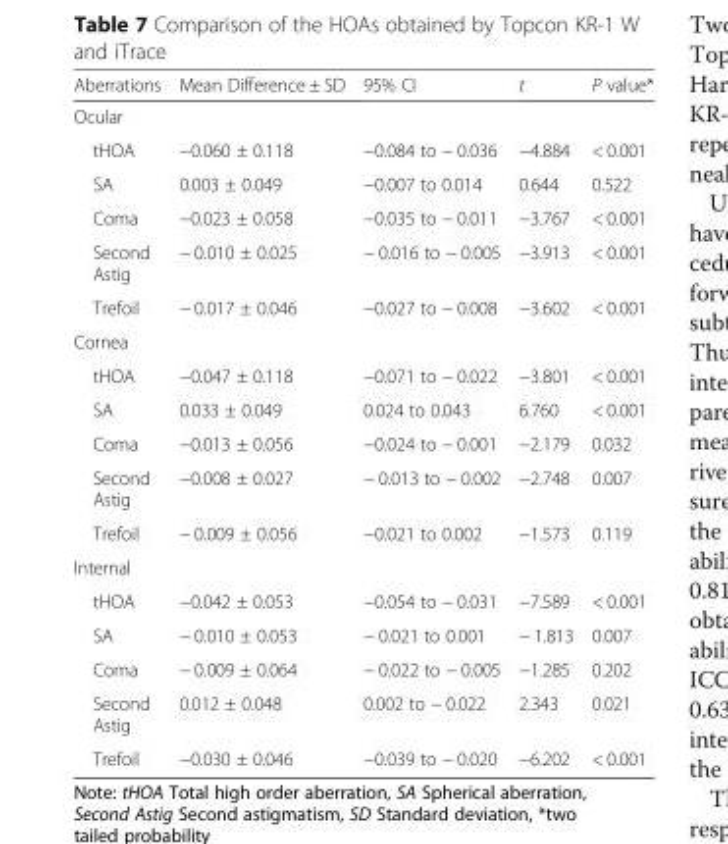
<table><thead><tr><td>Aberrations</td><td>Mean Difference ± SD</td><td>95% CI</td><td>t</td><td>P value*</td></tr></thead><tbody><tr><td colspan="5">Ocular</td></tr><tr><td>tHOA</td><td>−0.060 ± 0.118</td><td>−0.084 to − 0.036</td><td>−4.884</td><td>&lt; 0.001</td></tr><tr><td>SA</td><td>0.003 ± 0.049</td><td>−0.007 to 0.014</td><td>0.644</td><td>0.522</td></tr><tr><td>Coma</td><td>−0.023 ± 0.058</td><td>−0.035 to − 0.011</td><td>−3.767</td><td>&lt; 0.001</td></tr><tr><td>Second Astig</td><td>− 0.010 ± 0.025</td><td>− 0.016 to − 0.005</td><td>−3.913</td><td>&lt; 0.001</td></tr><tr><td>Trefoil</td><td>− 0.017 ± 0.046</td><td>−0.027 to − 0.008</td><td>−3.602</td><td>&lt; 0.001</td></tr><tr><td colspan="5">Cornea</td></tr><tr><td>tHOA</td><td>−0.047 ± 0.118</td><td>−0.071 to − 0.022</td><td>−3.801</td><td>&lt; 0.001</td></tr><tr><td>SA</td><td>0.033 ± 0.049</td><td>0.024 to 0.043</td><td>6.760</td><td>&lt; 0.001</td></tr><tr><td>Coma</td><td>−0.013 ± 0.056</td><td>−0.024 to − 0.001</td><td>−2.179</td><td>0.032</td></tr><tr><td>Second Astig</td><td>−0.008 ± 0.027</td><td>− 0.013 to − 0.002</td><td>−2.748</td><td>0.007</td></tr><tr><td>Trefoil</td><td>− 0.009 ± 0.056</td><td>−0.021 to 0.002</td><td>−1.573</td><td>0.119</td></tr><tr><td colspan="5">Internal</td></tr><tr><td>tHOA</td><td>−0.042 ± 0.053</td><td>−0.054 to − 0.031</td><td>−7.589</td><td>&lt; 0.001</td></tr><tr><td>SA</td><td>− 0.010 ± 0.053</td><td>− 0.021 to 0.001</td><td>− 1.813</td><td>0.007</td></tr><tr><td>Coma</td><td>− 0.009 ± 0.064</td><td>− 0.022 to − 0.005</td><td>−1.285</td><td>0.202</td></tr><tr><td>Second Astig</td><td>0.012 ± 0.048</td><td>0.002 to − 0.022</td><td>2.343</td><td>0.021</td></tr><tr><td>Trefoil</td><td>−0.030 ± 0.046</td><td>−0.039 to − 0.020</td><td>−6.202</td><td>&lt; 0.001</td></tr></tbody></table>